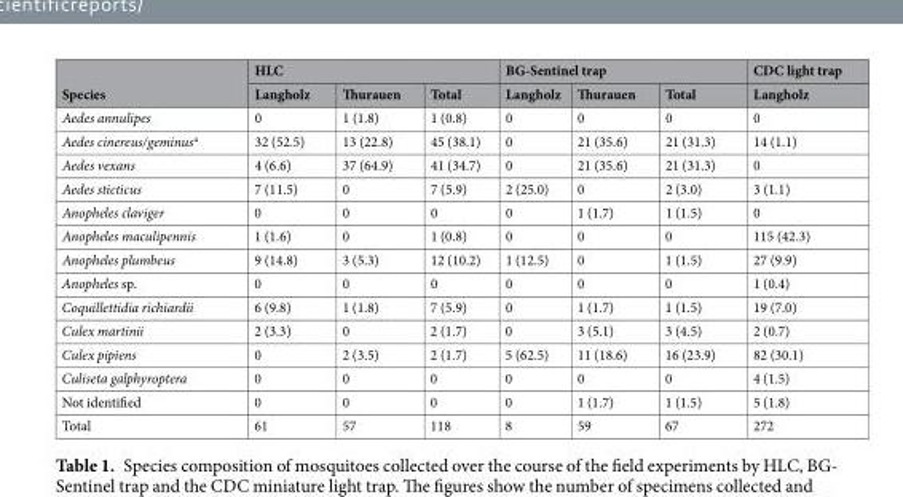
<table><thead><tr><td rowspan="2">Species</td><td colspan="3">HLC</td><td colspan="3">BG-Sentinel trap</td><td rowspan="2">CDC light trap Langholz</td></tr><tr><td>Langholz</td><td>Thurauen</td><td>Total</td><td>Langholz</td><td>Thurauen</td><td>Total</td></tr></thead><tbody><tr><td>Aedes annulipes</td><td>0</td><td>1 (1.8)</td><td>1 (0.8)</td><td>0</td><td>0</td><td>0</td><td>0</td></tr><tr><td>Aedes cinereus/geminus<sup>a</sup></td><td>32 (52.5)</td><td>13 (22.8)</td><td>45 (38.1)</td><td>0</td><td>21 (35.6)</td><td>21 (31.3)</td><td>14 (1.1)</td></tr><tr><td>Aedes vexans</td><td>4 (6.6)</td><td>37 (64.9)</td><td>41 (34.7)</td><td>0</td><td>21 (35.6)</td><td>21 (31.3)</td><td>0</td></tr><tr><td>Aedes sticticus</td><td>7 (11.5)</td><td>0</td><td>7 (5.9)</td><td>2 (25.0)</td><td>0</td><td>2 (3.0)</td><td>3 (1.1)</td></tr><tr><td>Anopheles claviger</td><td>0</td><td>0</td><td>0</td><td>0</td><td>1 (1.7)</td><td>1 (1.5)</td><td>0</td></tr><tr><td>Anopheles maculipennis</td><td>1 (1.6)</td><td>0</td><td>1 (0.8)</td><td>0</td><td>0</td><td>0</td><td>115 (42.3)</td></tr><tr><td>Anopheles plumbeus</td><td>9 (14.8)</td><td>3 (5.3)</td><td>12 (10.2)</td><td>1 (12.5)</td><td>0</td><td>1 (1.5)</td><td>27 (9.9)</td></tr><tr><td>Anopheles sp.</td><td>0</td><td>0</td><td>0</td><td>0</td><td>0</td><td>0</td><td>1 (0.4)</td></tr><tr><td>Coquillettidia richiardii</td><td>6 (9.8)</td><td>1 (1.8)</td><td>7 (5.9)</td><td>0</td><td>1 (1.7)</td><td>1 (1.5)</td><td>19 (7.0)</td></tr><tr><td>Culex martinii</td><td>2 (3.3)</td><td>0</td><td>2 (1.7)</td><td>0</td><td>3 (5.1)</td><td>3 (4.5)</td><td>2 (0.7)</td></tr><tr><td>Culex pipiens</td><td>0</td><td>2 (3.5)</td><td>2 (1.7)</td><td>5 (62.5)</td><td>11 (18.6)</td><td>16 (23.9)</td><td>82 (30.1)</td></tr><tr><td>Culiseta galphyroptera</td><td>0</td><td>0</td><td>0</td><td>0</td><td>0</td><td>0</td><td>4 (1.5)</td></tr><tr><td>Not identified</td><td>0</td><td>0</td><td>0</td><td>0</td><td>1 (1.7)</td><td>1 (1.5)</td><td>5 (1.8)</td></tr><tr><td>Total</td><td>61</td><td>57</td><td>118</td><td>8</td><td>59</td><td>67</td><td>272</td></tr></tbody></table>